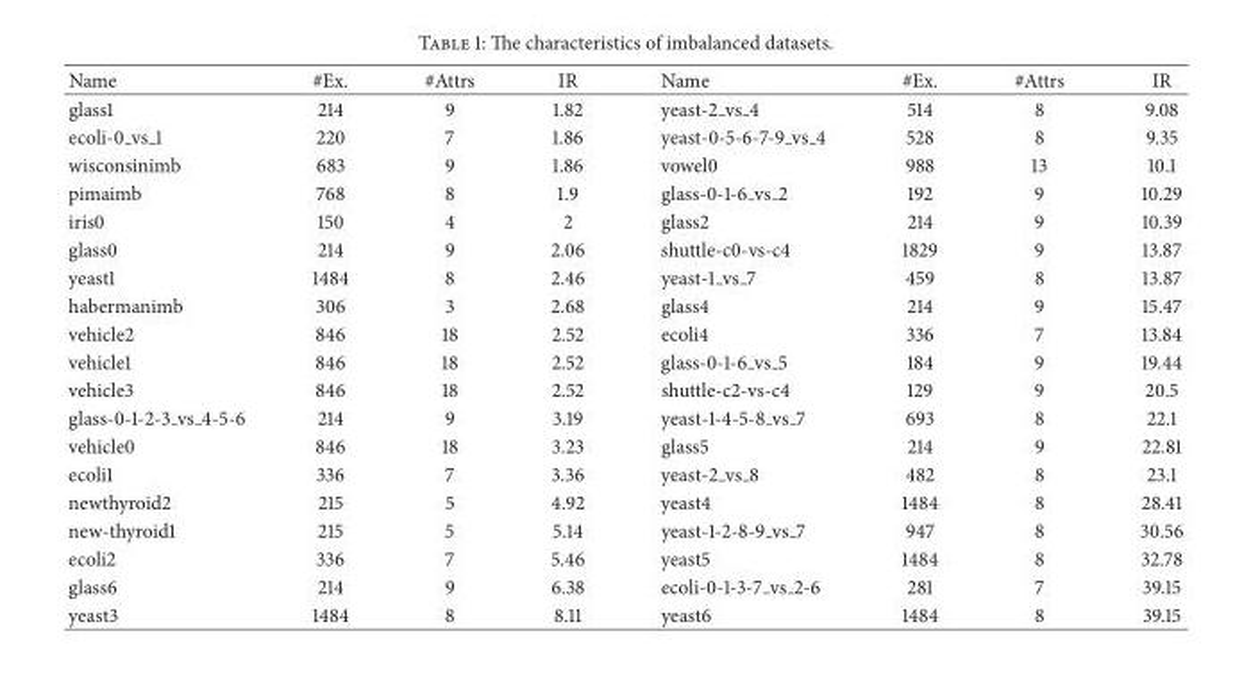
<table><thead><tr><td>Name</td><td>#Ex.</td><td>#Attrs</td><td>IR</td><td>Name</td><td>#Ex.</td><td>#Attrs</td><td>IR</td></tr></thead><tbody><tr><td>glass1</td><td>214</td><td>9</td><td>1.82</td><td>yeast-2 <sub>vs</sub> 4</td><td>514</td><td>8</td><td>9.08</td></tr><tr><td>ecoli-0 <sub>vs</sub> 1</td><td>220</td><td>7</td><td>1.86</td><td>yeast-0-5-6-7-9 <sub>vs</sub> 4</td><td>528</td><td>8</td><td>9.35</td></tr><tr><td>wisconsinimb</td><td>683</td><td>9</td><td>1.86</td><td>vowel0</td><td>988</td><td>13</td><td>10.1</td></tr><tr><td>pimaimb</td><td>768</td><td>8</td><td>1.9</td><td>glass-0-1-6 <sub>vs</sub> 2</td><td>192</td><td>9</td><td>10.29</td></tr><tr><td>iris0</td><td>150</td><td>4</td><td>2</td><td>glass2</td><td>214</td><td>9</td><td>10.39</td></tr><tr><td>glass0</td><td>214</td><td>9</td><td>2.06</td><td>shuttle-c0-vs-c4</td><td>1829</td><td>9</td><td>13.87</td></tr><tr><td>yeast1</td><td>1484</td><td>8</td><td>2.46</td><td>yeast-1 <sub>vs</sub> 7</td><td>459</td><td>8</td><td>13.87</td></tr><tr><td>habermanimb</td><td>306</td><td>3</td><td>2.68</td><td>glass4</td><td>214</td><td>9</td><td>15.47</td></tr><tr><td>vehicle2</td><td>846</td><td>18</td><td>2.52</td><td>ecoli4</td><td>336</td><td>7</td><td>13.84</td></tr><tr><td>vehicle1</td><td>846</td><td>18</td><td>2.52</td><td>glass-0-1-6 <sub>vs</sub> 5</td><td>184</td><td>9</td><td>19.44</td></tr><tr><td>vehicle3</td><td>846</td><td>18</td><td>2.52</td><td>shuttle-c2-vs-c4</td><td>129</td><td>9</td><td>20.5</td></tr><tr><td>glass-0-1-2-3 <sub>vs</sub> 4-5-6</td><td>214</td><td>9</td><td>3.19</td><td>yeast-1-4-5-8 <sub>vs</sub> 7</td><td>693</td><td>8</td><td>22.1</td></tr><tr><td>vehicle0</td><td>846</td><td>18</td><td>3.23</td><td>glass5</td><td>214</td><td>9</td><td>22.81</td></tr><tr><td>ecoli1</td><td>336</td><td>7</td><td>3.36</td><td>yeast-2 <sub>vs</sub> 8</td><td>482</td><td>8</td><td>23.1</td></tr><tr><td>newthyroid2</td><td>215</td><td>5</td><td>4.92</td><td>yeast4</td><td>1484</td><td>8</td><td>28.41</td></tr><tr><td>new-thyroid1</td><td>215</td><td>5</td><td>5.14</td><td>yeast-1-2-8-9 <sub>vs</sub> 7</td><td>947</td><td>8</td><td>30.56</td></tr><tr><td>ecoli2</td><td>336</td><td>7</td><td>5.46</td><td>yeast5</td><td>1484</td><td>8</td><td>32.78</td></tr><tr><td>glass6</td><td>214</td><td>9</td><td>6.38</td><td>ecoli-0-1-3-7 <sub>vs</sub> 2-6</td><td>281</td><td>7</td><td>39.15</td></tr><tr><td>yeast3</td><td>1484</td><td>8</td><td>8.11</td><td>yeast6</td><td>1484</td><td>8</td><td>39.15</td></tr></tbody></table>